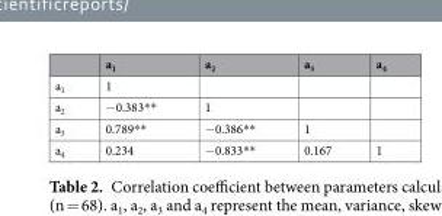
<table><thead><tr><td></td><td>a<sub>1</sub></td><td>a<sub>2</sub></td><td>a<sub>3</sub></td><td>a<sub>4</sub></td></tr></thead><tbody><tr><td>a<sub>1</sub></td><td>1</td><td></td><td></td><td></td></tr><tr><td>a<sub>2</sub></td><td>−0.383**</td><td>1</td><td></td><td></td></tr><tr><td>a<sub>3</sub></td><td>0.789**</td><td>−0.386**</td><td>1</td><td></td></tr><tr><td>a<sub>4</sub></td><td>0.234</td><td>−0.833**</td><td>0.167</td><td>1</td></tr></tbody></table>